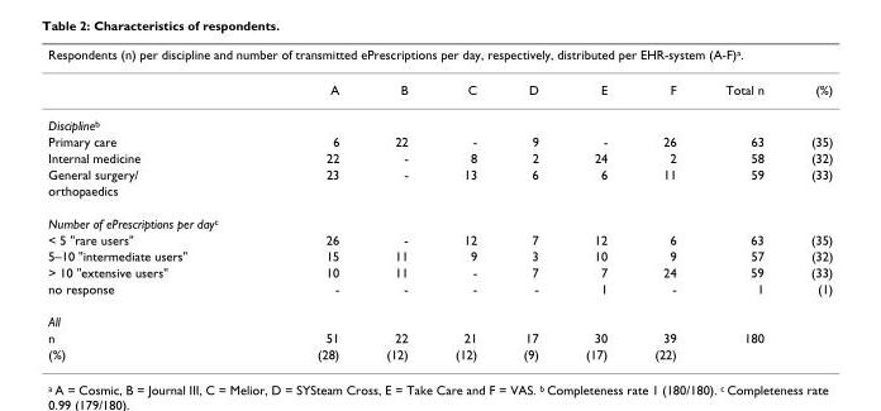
<table><thead><tr><td colspan="9">Respondents (n) per discipline and number of transmitted ePrescriptions per day, respectively, distributed per EHR-system (A-F)<sup>a</sup>.</td></tr><tr><td></td><td>A</td><td>B</td><td>C</td><td>D</td><td>E</td><td>F</td><td>Total n</td><td>(%)</td></tr></thead><tbody><tr><td colspan="9">Discipline<sup>b</sup></td></tr><tr><td>Primary care</td><td>6</td><td>22</td><td>-</td><td>9</td><td>-</td><td>26</td><td>63</td><td>(35)</td></tr><tr><td>Internal medicine</td><td>22</td><td>-</td><td>8</td><td>2</td><td>24</td><td>2</td><td>58</td><td>(32)</td></tr><tr><td>General surgery/</td><td>23</td><td>-</td><td>13</td><td>6</td><td>6</td><td>11</td><td>59</td><td>(33)</td></tr><tr><td colspan="9">orthopaedics</td></tr><tr><td colspan="9">Number of ePrescriptions per day<sup>c</sup></td></tr><tr><td>&lt; 5 &quot;rare users&quot;</td><td>26</td><td>-</td><td>12</td><td>7</td><td>12</td><td>6</td><td>63</td><td>(35)</td></tr><tr><td>5–10 &quot;intermediate users&quot;</td><td>15</td><td>11</td><td>9</td><td>3</td><td>10</td><td>9</td><td>57</td><td>(32)</td></tr><tr><td>&gt; 10 &quot;extensive users&quot;</td><td>10</td><td>11</td><td>-</td><td>7</td><td>7</td><td>24</td><td>59</td><td>(33)</td></tr><tr><td>no response</td><td>-</td><td>-</td><td>-</td><td>-</td><td>1</td><td>-</td><td>1</td><td>(1)</td></tr><tr><td colspan="9">All</td></tr><tr><td>n</td><td>51</td><td>22</td><td>21</td><td>17</td><td>30</td><td>39</td><td>180</td><td></td></tr><tr><td>(%)</td><td>(28)</td><td>(12)</td><td>(12)</td><td>(9)</td><td>(17)</td><td>(22)</td><td></td><td></td></tr></tbody></table>